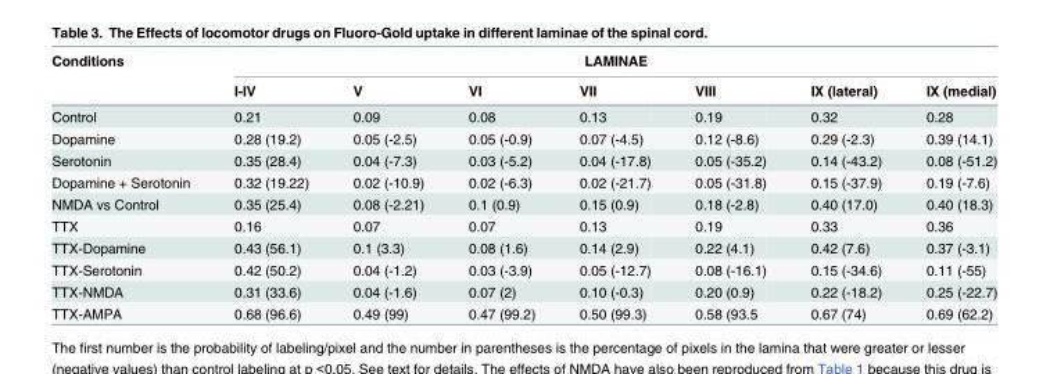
<table><thead><tr><td rowspan="2">Conditions</td><td colspan="7">LAMINAE</td></tr><tr><td>I-IV</td><td>V</td><td>VI</td><td>VII</td><td>VIII</td><td>IX (lateral)</td><td>IX (medial)</td></tr></thead><tbody><tr><td>Control</td><td>0.21</td><td>0.09</td><td>0.08</td><td>0.13</td><td>0.19</td><td>0.32</td><td>0.28</td></tr><tr><td>Dopamine</td><td>0.28 (19.2)</td><td>0.05 (-2.5)</td><td>0.05 (-0.9)</td><td>0.07 (-4.5)</td><td>0.12 (-8.6)</td><td>0.29 (-2.3)</td><td>0.39 (14.1)</td></tr><tr><td>Serotonin</td><td>0.35 (28.4)</td><td>0.04 (-7.3)</td><td>0.03 (-5.2)</td><td>0.04 (-17.8)</td><td>0.05 (-35.2)</td><td>0.14 (-43.2)</td><td>0.08 (-51.2)</td></tr><tr><td>Dopamine + Serotonin</td><td>0.32 (19.22)</td><td>0.02 (-10.9)</td><td>0.02 (-6.3)</td><td>0.02 (-21.7)</td><td>0.05 (-31.8)</td><td>0.15 (-37.9)</td><td>0.19 (-7.6)</td></tr><tr><td>NMDA vs Control</td><td>0.35 (25.4)</td><td>0.08 (-2.21)</td><td>0.1 (0.9)</td><td>0.15 (0.9)</td><td>0.18 (-2.8)</td><td>0.40 (17.0)</td><td>0.40 (18.3)</td></tr><tr><td>TTX</td><td>0.16</td><td>0.07</td><td>0.07</td><td>0.13</td><td>0.19</td><td>0.33</td><td>0.36</td></tr><tr><td>TTX-Dopamine</td><td>0.43 (56.1)</td><td>0.1 (3.3)</td><td>0.08 (1.6)</td><td>0.14 (2.9)</td><td>0.22 (4.1)</td><td>0.42 (7.6)</td><td>0.37 (-3.1)</td></tr><tr><td>TTX-Serotonin</td><td>0.42 (50.2)</td><td>0.04 (-1.2)</td><td>0.03 (-3.9)</td><td>0.05 (-12.7)</td><td>0.08 (-16.1)</td><td>0.15 (-34.6)</td><td>0.11 (-55)</td></tr><tr><td>TTX-NMDA</td><td>0.31 (33.6)</td><td>0.04 (-1.6)</td><td>0.07 (2)</td><td>0.10 (-0.3)</td><td>0.20 (0.9)</td><td>0.22 (-18.2)</td><td>0.25 (-22.7)</td></tr><tr><td>TTX-AMPA</td><td>0.68 (96.6)</td><td>0.49 (99)</td><td>0.47 (99.2)</td><td>0.50 (99.3)</td><td>0.58 (93.5</td><td>0.67 (74)</td><td>0.69 (62.2)</td></tr></tbody></table>